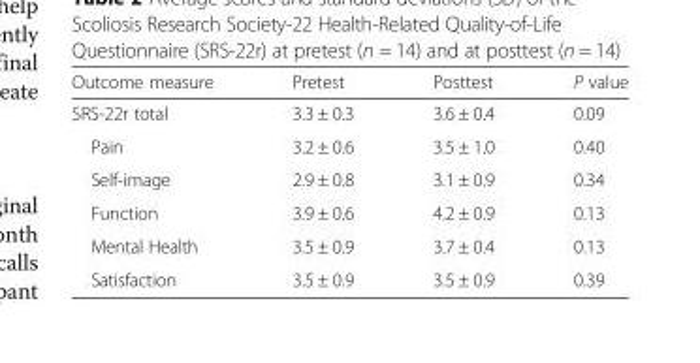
<table><thead><tr><td>Outcome measure</td><td>Pretest</td><td>Posttest</td><td>P value</td></tr></thead><tbody><tr><td>SRS-22r total</td><td>3.3 ± 0.3</td><td>3.6 ± 0.4</td><td>0.09</td></tr><tr><td>Pain</td><td>3.2 ± 0.6</td><td>3.5 ± 1.0</td><td>0.40</td></tr><tr><td>Self-image</td><td>2.9 ± 0.8</td><td>3.1 ± 0.9</td><td>0.34</td></tr><tr><td>Function</td><td>3.9 ± 0.6</td><td>4.2 ± 0.9</td><td>0.13</td></tr><tr><td>Mental Health</td><td>3.5 ± 0.9</td><td>3.7 ± 0.4</td><td>0.13</td></tr><tr><td>Satisfaction</td><td>3.5 ± 0.9</td><td>3.5 ± 0.9</td><td>0.39</td></tr></tbody></table>